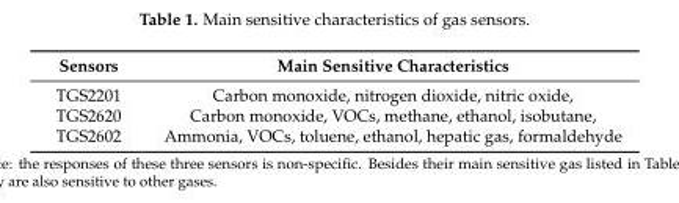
<table><thead><tr><td>Sensors</td><td>Main Sensitive Characteristics</td></tr></thead><tbody><tr><td>TGS2201</td><td>Carbon monoxide, nitrogen dioxide, nitric oxide,</td></tr><tr><td>TGS2620</td><td>Carbon monoxide, VOCs, methane, ethanol, isobutane,</td></tr><tr><td>TGS2602</td><td>Ammonia, VOCs, toluene, ethanol, hepatic gas, formaldehyde</td></tr></tbody></table>